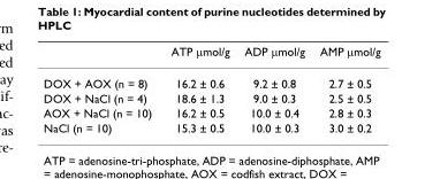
<table><thead><tr><td></td><td>ATP μmol/g</td><td>ADP μmol/g</td><td>AMP μmol/g</td></tr></thead><tbody><tr><td>DOX + AOX (n = 8)</td><td>16.2 ± 0.6</td><td>9.2 ± 0.8</td><td>2.7 ± 0.5</td></tr><tr><td>DOX + NaCl (n = 4)</td><td>18.6 ± 1.3</td><td>9.0 ± 0.3</td><td>2.5 ± 0.5</td></tr><tr><td>AOX + NaCl (n = 10)</td><td>16.2 ± 0.5</td><td>10.0 ± 0.4</td><td>2.8 ± 0.3</td></tr><tr><td>NaCl (n = 10)</td><td>15.3 ± 0.5</td><td>10.0 ± 0.3</td><td>3.0 ± 0.2</td></tr></tbody></table>